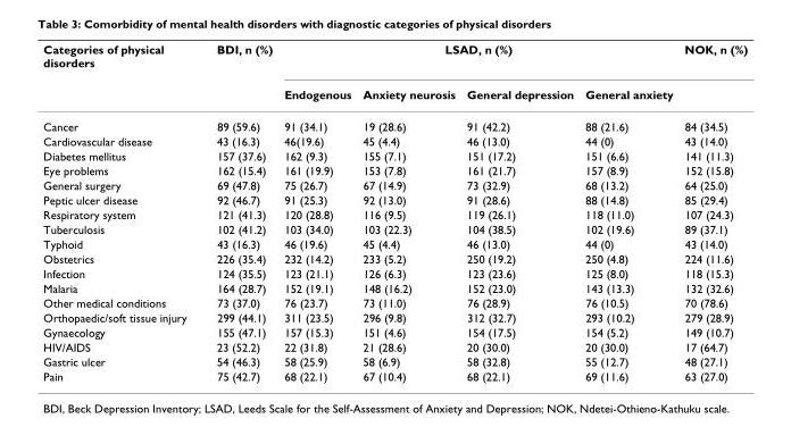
<table><thead><tr><td rowspan="2">Categories of physical disorders</td><td rowspan="2">BDI, n (%)</td><td colspan="4">LSAD, n (%)</td><td rowspan="2">NOK, n (%)</td></tr><tr><td>Endogenous</td><td>Anxiety neurosis</td><td>General depression</td><td>General anxiety</td></tr></thead><tbody><tr><td>Cancer</td><td>89 (59.6)</td><td>91 (34.1)</td><td>19 (28.6)</td><td>91 (42.2)</td><td>88 (21.6)</td><td>84 (34.5)</td></tr><tr><td>Cardiovascular disease</td><td>43 (16.3)</td><td>46(19.6)</td><td>45 (4.4)</td><td>46 (13.0)</td><td>44 (0)</td><td>43 (14.0)</td></tr><tr><td>Diabetes mellitus</td><td>157 (37.6)</td><td>162 (9.3)</td><td>155 (7.1)</td><td>151 (17.2)</td><td>151 (6.6)</td><td>141 (11.3)</td></tr><tr><td>Eye problems</td><td>162 (15.4)</td><td>161 (19.9)</td><td>153 (7.8)</td><td>161 (21.7)</td><td>157 (8.9)</td><td>152 (15.8)</td></tr><tr><td>General surgery</td><td>69 (47.8)</td><td>75 (26.7)</td><td>67 (14.9)</td><td>73 (32.9)</td><td>68 (13.2)</td><td>64 (25.0)</td></tr><tr><td>Peptic ulcer disease</td><td>92 (46.7)</td><td>91 (25.3)</td><td>92 (13.0)</td><td>91 (28.6)</td><td>88 (14.8)</td><td>85 (29.4)</td></tr><tr><td>Respiratory system</td><td>121 (41.3)</td><td>120 (28.8)</td><td>116 (9.5)</td><td>119 (26.1)</td><td>118 (11.0)</td><td>107 (24.3)</td></tr><tr><td>Tuberculosis</td><td>102 (41.2)</td><td>103 (34.0)</td><td>103 (22.3)</td><td>104 (38.5)</td><td>102 (19.6)</td><td>89 (37.1)</td></tr><tr><td>Typhoid</td><td>43 (16.3)</td><td>46 (19.6)</td><td>45 (4.4)</td><td>46 (13.0)</td><td>44 (0)</td><td>43 (14.0)</td></tr><tr><td>Obstetrics</td><td>226 (35.4)</td><td>232 (14.2)</td><td>233 (5.2)</td><td>250 (19.2)</td><td>250 (4.8)</td><td>224 (11.6)</td></tr><tr><td>Infection</td><td>124 (35.5)</td><td>123 (21.1)</td><td>126 (6.3)</td><td>123 (23.6)</td><td>125 (8.0)</td><td>118 (15.3)</td></tr><tr><td>Malaria</td><td>164 (28.7)</td><td>152 (19.1)</td><td>148 (16.2)</td><td>152 (23.0)</td><td>143 (13.3)</td><td>132 (32.6)</td></tr><tr><td>Other medical conditions</td><td>73 (37.0)</td><td>76 (23.7)</td><td>73 (11.0)</td><td>76 (28.9)</td><td>76 (10.5)</td><td>70 (78.6)</td></tr><tr><td>Orthopaedic/soft tissue injury</td><td>299 (44.1)</td><td>311 (23.5)</td><td>296 (9.8)</td><td>312 (32.7)</td><td>293 (10.2)</td><td>279 (28.9)</td></tr><tr><td>Gynaecology</td><td>155 (47.1)</td><td>157 (15.3)</td><td>151 (4.6)</td><td>154 (17.5)</td><td>154 (5.2)</td><td>149 (10.7)</td></tr><tr><td>HIV/AIDS</td><td>23 (52.2)</td><td>22 (31.8)</td><td>21 (28.6)</td><td>20 (30.0)</td><td>20 (30.0)</td><td>17 (64.7)</td></tr><tr><td>Gastric ulcer</td><td>54 (46.3)</td><td>58 (25.9)</td><td>58 (6.9)</td><td>58 (32.8)</td><td>55 (12.7)</td><td>48 (27.1)</td></tr><tr><td>Pain</td><td>75 (42.7)</td><td>68 (22.1)</td><td>67 (10.4)</td><td>68 (22.1)</td><td>69 (11.6)</td><td>63 (27.0)</td></tr></tbody></table>